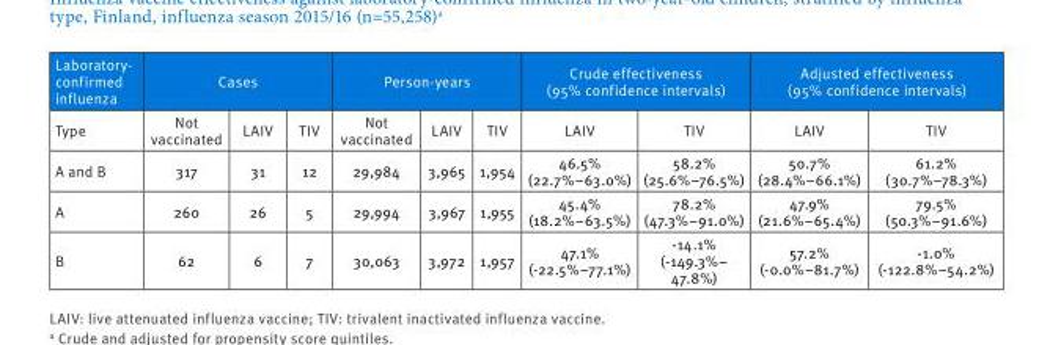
<table><thead><tr><td rowspan="2">Laboratory- confirmed influenza Type</td><td colspan="3">Cases</td><td colspan="3">Person-years</td><td colspan="2">Crude effectiveness (95% confidence intervals)</td><td colspan="2">Adjusted effectiveness (95% confidence intervals)</td></tr><tr><td>Not vaccinated</td><td>LAIV</td><td>TIV</td><td>Not vaccinated</td><td>LAIV</td><td>TIV</td><td>LAIV</td><td>TIV</td><td>LAIV</td><td>TIV</td></tr></thead><tbody><tr><td>A and B</td><td>317</td><td>31</td><td>12</td><td>29,984</td><td>3,965</td><td>1,954</td><td>46.5% (22.7%–63.0%)</td><td>58.2% (25.6%–76.5%)</td><td>50.7% (28.4%–66.1%)</td><td>61.2% (30.7%–78.3%)</td></tr><tr><td>A</td><td>260</td><td>26</td><td>5</td><td>29,994</td><td>3,967</td><td>1,955</td><td>45.4% (18.2%–63.5%)</td><td>78.2% (47.3%–91.0%)</td><td>47.9% (21.6%–65.4%)</td><td>79.5% (50.3%–91.6%)</td></tr><tr><td>B</td><td>62</td><td>6</td><td>7</td><td>30,063</td><td>3,972</td><td>1,957</td><td>47.1% (-22.5%–77.1%)</td><td>-14.1% (-149.3%– 47.8%)</td><td>57.2% (-0.0%–81.7%)</td><td>-1.0% (-122.8%–54.2%)</td></tr></tbody></table>